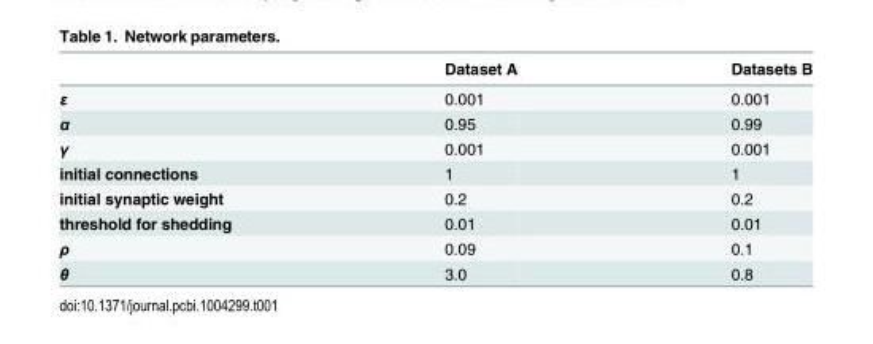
<table><thead><tr><td></td><td>Dataset A</td><td>Datasets B</td></tr></thead><tbody><tr><td>ε</td><td>0.001</td><td>0.001</td></tr><tr><td>α</td><td>0.95</td><td>0.99</td></tr><tr><td>γ</td><td>0.001</td><td>0.001</td></tr><tr><td>initial connections</td><td>1</td><td>1</td></tr><tr><td>initial synaptic weight</td><td>0.2</td><td>0.2</td></tr><tr><td>threshold for shedding</td><td>0.01</td><td>0.01</td></tr><tr><td>ρ</td><td>0.09</td><td>0.1</td></tr><tr><td>θ</td><td>3.0</td><td>0.8</td></tr></tbody></table>